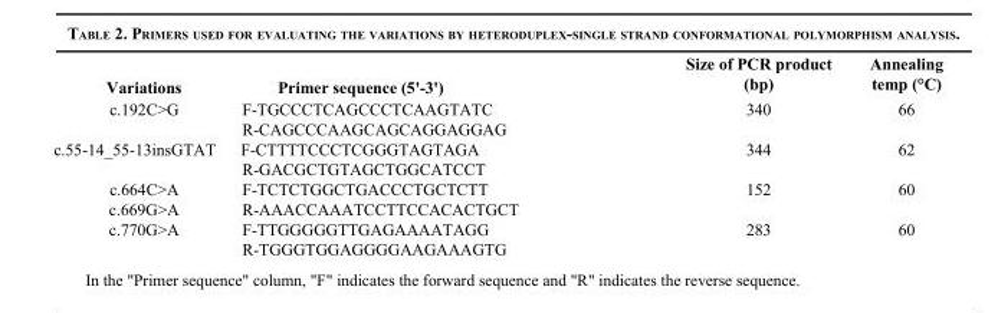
<table><thead><tr><td>Variations</td><td>Primer sequence (5&#x27;-3&#x27;)</td><td>Size of PCR product (bp)</td><td>Annealing temp (°C)</td></tr></thead><tbody><tr><td rowspan="2">c.192C&gt;G</td><td>F-TGCCCTCAGCCCTCAAGTATC</td><td>340</td><td>66</td></tr><tr><td>R-CAGCCCAAGCAGCAGGAGGAG</td><td></td><td></td></tr><tr><td rowspan="2">c.55-14_55-13insGTAT</td><td>F-CTTTTCCCTCGGGTAGTAGA</td><td>344</td><td>62</td></tr><tr><td>R-GACGCTGTAGCTGGCATCCT</td><td></td><td></td></tr><tr><td>c.664C&gt;A</td><td>F-TCTCTGGCTGACCCTGCTCTT</td><td>152</td><td>60</td></tr><tr><td>c.669G&gt;A</td><td>R-AAACCAAATCCTTCCACACTGCT</td><td></td><td></td></tr><tr><td rowspan="2">c.770G&gt;A</td><td>F-TTGGGGGTTGAGAAAATAGG</td><td>283</td><td>60</td></tr><tr><td>R-TGGGTGGAGGGGAAGAAAGTG</td><td></td><td></td></tr></tbody></table>